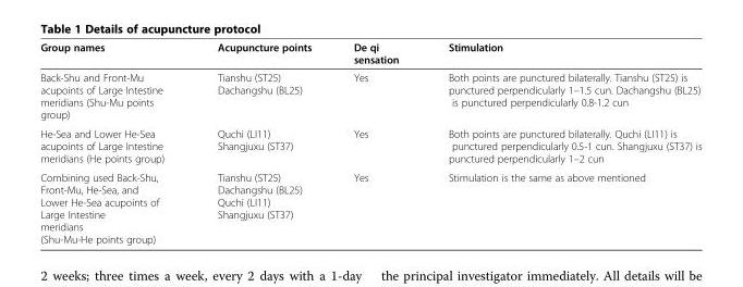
<table><thead><tr><td>Group names</td><td>Acupuncture points</td><td>De qi sensation</td><td>Stimulation</td></tr></thead><tbody><tr><td>Back-Shu and Front-Mu acupoints of Large Intestine meridians (Shu-Mu points group)</td><td>Tianshu (ST25) Dachangshu (BL25)</td><td>Yes</td><td>Both points are punctured bilaterally. Tianshu (ST25) is punctured perpendicularly 1–1.5 cun. Dachangshu (BL25) is punctured perpendicularly 0.8-1.2 cun</td></tr><tr><td>He-Sea and Lower He-Sea acupoints of Large Intestine meridians (He points group)</td><td>Quchi (LI11) Shangjuxu (ST37)</td><td>Yes</td><td>Both points are punctured bilaterally. Quchi (LI11) is punctured perpendicularly 0.5-1 cun. Shangjuxu (ST37) is punctured perpendicularly 1–2 cun</td></tr><tr><td>Combining used Back-Shu, Front-Mu, He-Sea, and Lower He-Sea acupoints of Large Intestine meridians (Shu-Mu-He points group)</td><td>Tianshu (ST25) Dachangshu (BL25) Quchi (LI11) Shangjuxu (ST37)</td><td>Yes</td><td>Stimulation is the same as above mentioned</td></tr></tbody></table>